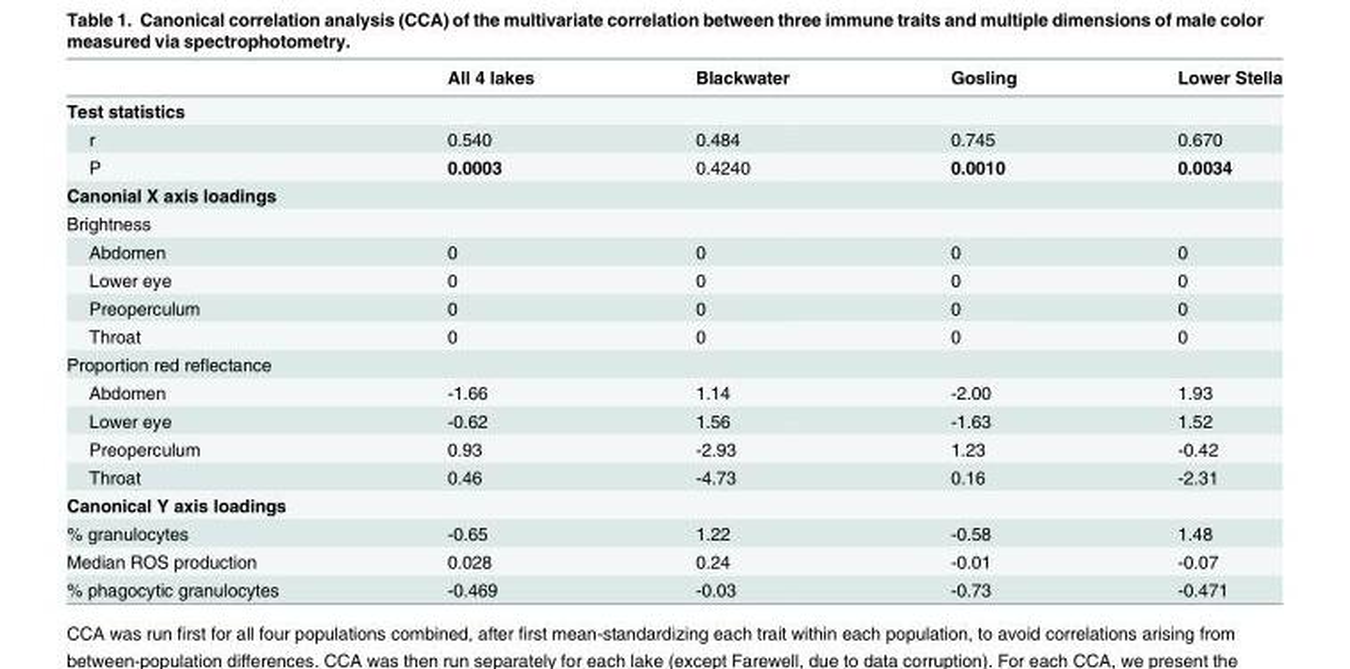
<table><thead><tr><td></td><td>All 4 lakes</td><td>Blackwater</td><td>Gosling</td><td>Lower Stella</td></tr></thead><tbody><tr><td colspan="5">Test statistics</td></tr><tr><td>r</td><td>0.540</td><td>0.484</td><td>0.745</td><td>0.670</td></tr><tr><td>P</td><td>0.0003</td><td>0.4240</td><td>0.0010</td><td>0.0034</td></tr><tr><td colspan="5">Canonial X axis loadings</td></tr><tr><td colspan="5">Brightness</td></tr><tr><td>Abdomen</td><td>0</td><td>0</td><td>0</td><td>0</td></tr><tr><td>Lower eye</td><td>0</td><td>0</td><td>0</td><td>0</td></tr><tr><td>Preoperculum</td><td>0</td><td>0</td><td>0</td><td>0</td></tr><tr><td>Throat</td><td>0</td><td>0</td><td>0</td><td>0</td></tr><tr><td colspan="5">Proportion red reflectance</td></tr><tr><td>Abdomen</td><td>-1.66</td><td>1.14</td><td>-2.00</td><td>1.93</td></tr><tr><td>Lower eye</td><td>-0.62</td><td>1.56</td><td>-1.63</td><td>1.52</td></tr><tr><td>Preoperculum</td><td>0.93</td><td>-2.93</td><td>1.23</td><td>-0.42</td></tr><tr><td>Throat</td><td>0.46</td><td>-4.73</td><td>0.16</td><td>-2.31</td></tr><tr><td colspan="5">Canonical Y axis loadings</td></tr><tr><td>% granulocytes</td><td>-0.65</td><td>1.22</td><td>-0.58</td><td>1.48</td></tr><tr><td>Median ROS production</td><td>0.028</td><td>0.24</td><td>-0.01</td><td>-0.07</td></tr><tr><td>% phagocytic granulocytes</td><td>-0.469</td><td>-0.03</td><td>-0.73</td><td>-0.471</td></tr></tbody></table>